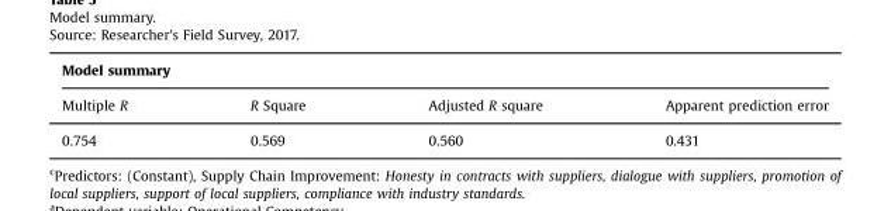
<table><thead><tr><td colspan="4">Model summary</td></tr><tr><td>Multiple R</td><td>R Square</td><td>Adjusted R square</td><td>Apparent prediction error</td></tr></thead><tbody><tr><td>0.754</td><td>0.569</td><td>0.560</td><td>0.431</td></tr></tbody></table>